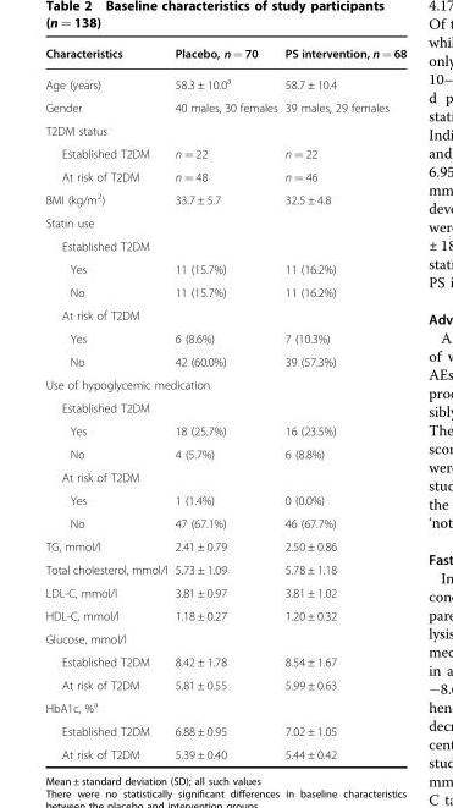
<table><thead><tr><td>Characteristics</td><td>Placebo, n = 70</td><td>PS intervention, n = 68</td></tr></thead><tbody><tr><td>Age (years)</td><td>58.3 ± 10.0<sup>a</sup></td><td>58.7 ± 10.4</td></tr><tr><td>Gender</td><td>40 males, 30 females</td><td>39 males, 29 females</td></tr><tr><td colspan="3">T2DM status</td></tr><tr><td>Established T2DM</td><td>n = 22</td><td>n = 22</td></tr><tr><td>At risk of T2DM</td><td>n = 48</td><td>n = 46</td></tr><tr><td>BMI (kg/m<sup>2</sup>)</td><td>33.7 ± 5.7</td><td>32.5 ± 4.8</td></tr><tr><td colspan="3">Statin use</td></tr><tr><td colspan="3">Established T2DM</td></tr><tr><td>Yes</td><td>11 (15.7%)</td><td>11 (16.2%)</td></tr><tr><td>No</td><td>11 (15.7%)</td><td>11 (16.2%)</td></tr><tr><td colspan="3">At risk of T2DM</td></tr><tr><td>Yes</td><td>6 (8.6%)</td><td>7 (10.3%)</td></tr><tr><td>No</td><td>42 (60.0%)</td><td>39 (57.3%)</td></tr><tr><td colspan="3">Use of hypoglycemic medication</td></tr><tr><td colspan="3">Established T2DM</td></tr><tr><td>Yes</td><td>18 (25.7%)</td><td>16 (23.5%)</td></tr><tr><td>No</td><td>4 (5.7%)</td><td>6 (8.8%)</td></tr><tr><td colspan="3">At risk of T2DM</td></tr><tr><td>Yes</td><td>1 (1.4%)</td><td>0 (0.0%)</td></tr><tr><td>No</td><td>47 (67.1%)</td><td>46 (67.7%)</td></tr><tr><td>TG, mmol/l</td><td>2.41 ± 0.79</td><td>2.50 ± 0.86</td></tr><tr><td>Total cholesterol, mmol/l</td><td>5.73 ± 1.09</td><td>5.78 ± 1.18</td></tr><tr><td>LDL-C, mmol/l</td><td>3.81 ± 0.97</td><td>3.81 ± 1.02</td></tr><tr><td>HDL-C, mmol/l</td><td>1.18 ± 0.27</td><td>1.20 ± 0.32</td></tr><tr><td colspan="3">Glucose, mmol/l</td></tr><tr><td>Established T2DM</td><td>8.42 ± 1.78</td><td>8.54 ± 1.67</td></tr><tr><td>At risk of T2DM</td><td>5.81 ± 0.55</td><td>5.99 ± 0.63</td></tr><tr><td colspan="3">HbA1c, %<sup>a</sup></td></tr><tr><td>Established T2DM</td><td>6.88 ± 0.95</td><td>7.02 ± 1.05</td></tr><tr><td>At risk of T2DM</td><td>5.39 ± 0.40</td><td>5.44 ± 0.42</td></tr></tbody></table>